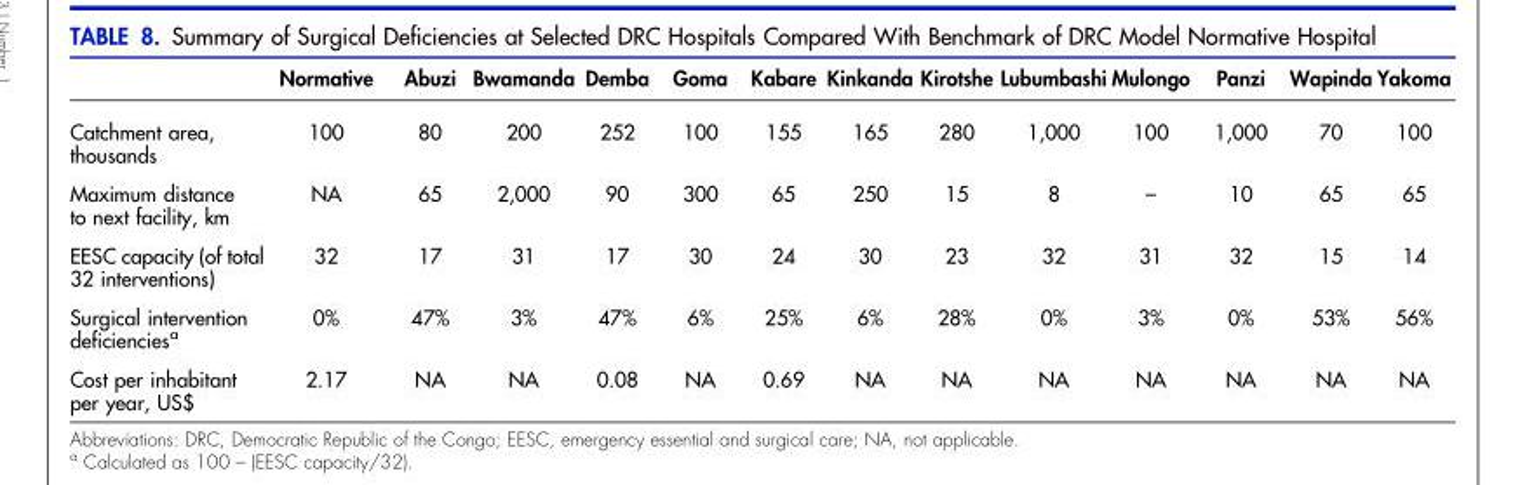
<table><thead><tr><td></td><td>Normative</td><td>Abuzi</td><td>Bwamanda</td><td>Demba</td><td>Goma</td><td>Kabare</td><td>Kinkanda</td><td>Kirotshe</td><td>Lubumbashi</td><td>Mulongo</td><td>Panzi</td><td>Wapinda</td><td>Yakoma</td></tr></thead><tbody><tr><td>Catchment area, thousands</td><td>100</td><td>80</td><td>200</td><td>252</td><td>100</td><td>155</td><td>165</td><td>280</td><td>1,000</td><td>100</td><td>1,000</td><td>70</td><td>100</td></tr><tr><td>Maximum distance to next facility, km</td><td>NA</td><td>65</td><td>2,000</td><td>90</td><td>300</td><td>65</td><td>250</td><td>15</td><td>8</td><td>–</td><td>10</td><td>65</td><td>65</td></tr><tr><td>EESC capacity (of total 32 interventions)</td><td>32</td><td>17</td><td>31</td><td>17</td><td>30</td><td>24</td><td>30</td><td>23</td><td>32</td><td>31</td><td>32</td><td>15</td><td>14</td></tr><tr><td>Surgical intervention deficiencies<sup>a</sup></td><td>0%</td><td>47%</td><td>3%</td><td>47%</td><td>6%</td><td>25%</td><td>6%</td><td>28%</td><td>0%</td><td>3%</td><td>0%</td><td>53%</td><td>56%</td></tr><tr><td>Cost per inhabitant per year, US$</td><td>2.17</td><td>NA</td><td>NA</td><td>0.08</td><td>NA</td><td>0.69</td><td>NA</td><td>NA</td><td>NA</td><td>NA</td><td>NA</td><td>NA</td><td>NA</td></tr></tbody></table>